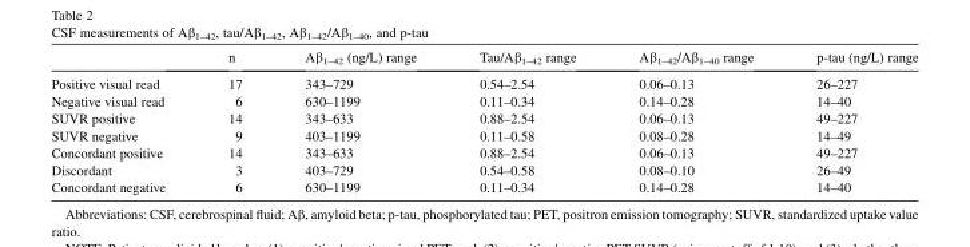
<table><thead><tr><td></td><td>n</td><td>Aβ<sub>1–42</sub> (ng/L) range</td><td>Tau/Aβ<sub>1–42</sub> range</td><td>Aβ<sub>1–42</sub>/Aβ<sub>1–40</sub> range</td><td>p-tau (ng/L) range</td></tr></thead><tbody><tr><td>Positive visual read</td><td>17</td><td>343–729</td><td>0.54–2.54</td><td>0.06–0.13</td><td>26–227</td></tr><tr><td>Negative visual read</td><td>6</td><td>630–1199</td><td>0.11–0.34</td><td>0.14–0.28</td><td>14–40</td></tr><tr><td>SUVR positive</td><td>14</td><td>343–633</td><td>0.88–2.54</td><td>0.06–0.13</td><td>49–227</td></tr><tr><td>SUVR negative</td><td>9</td><td>403–1199</td><td>0.11–0.58</td><td>0.08–0.28</td><td>14–49</td></tr><tr><td>Concordant positive</td><td>14</td><td>343–633</td><td>0.88–2.54</td><td>0.06–0.13</td><td>49–227</td></tr><tr><td>Discordant</td><td>3</td><td>403–729</td><td>0.54–0.58</td><td>0.08–0.10</td><td>26–49</td></tr><tr><td>Concordant negative</td><td>6</td><td>630–1199</td><td>0.11–0.34</td><td>0.14–0.28</td><td>14–40</td></tr></tbody></table>